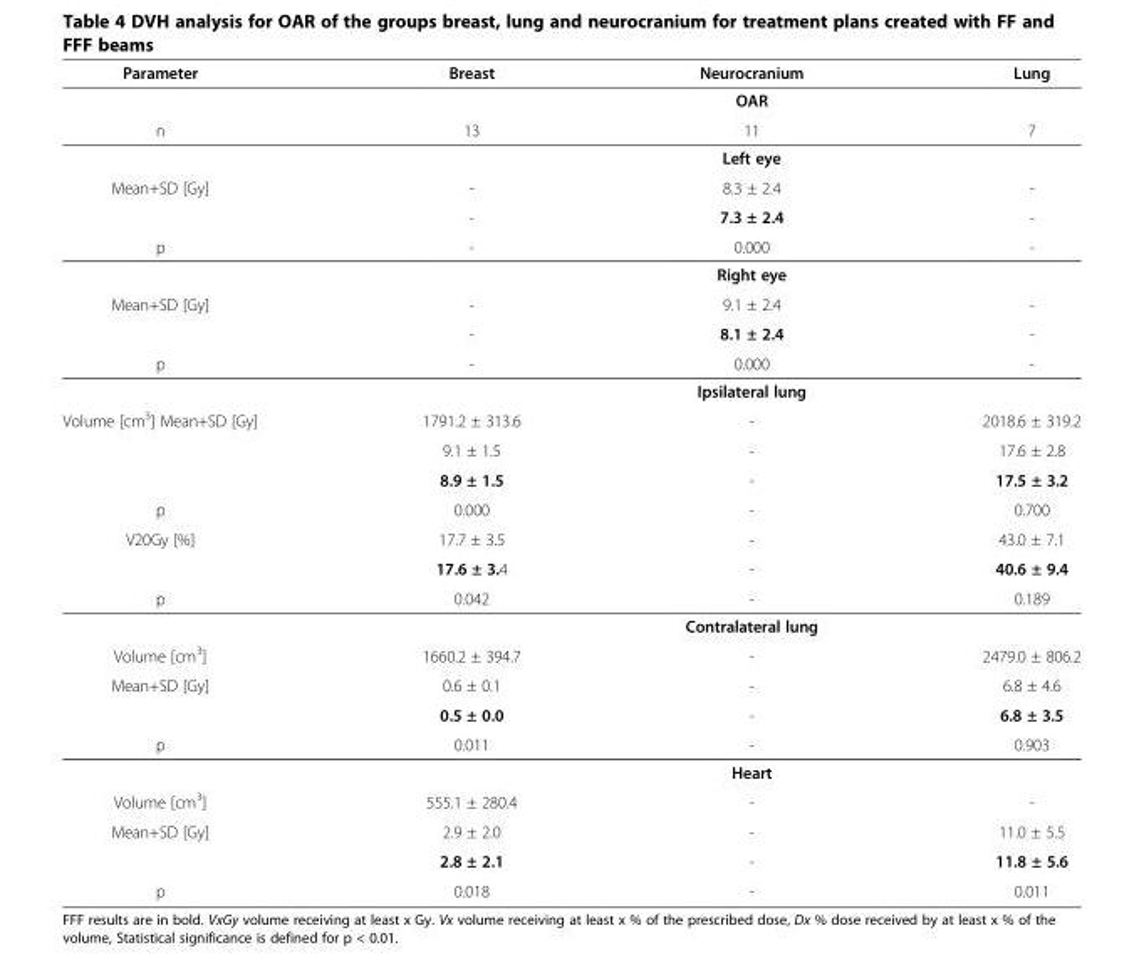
<table><thead><tr><td>Parameter</td><td>Breast</td><td>Neurocranium</td><td>Lung</td></tr></thead><tbody><tr><td></td><td></td><td>OAR</td><td></td></tr><tr><td rowspan="2">n</td><td>13</td><td>11</td><td>7</td></tr><tr><td></td><td>Left eye</td><td></td></tr><tr><td rowspan="2">Mean+SD [Gy]</td><td>-</td><td>8.3 ± 2.4</td><td>-</td></tr><tr><td>-</td><td>7.3 ± 2.4</td><td>-</td></tr><tr><td rowspan="2">p</td><td>-</td><td>0.000</td><td>-</td></tr><tr><td></td><td>Right eye</td><td></td></tr><tr><td rowspan="2">Mean+SD [Gy]</td><td>-</td><td>9.1 ± 2.4</td><td>-</td></tr><tr><td>-</td><td>8.1 ± 2.4</td><td>-</td></tr><tr><td rowspan="2">p</td><td>-</td><td>0.000</td><td>-</td></tr><tr><td></td><td>Ipsilateral lung</td><td></td></tr><tr><td rowspan="3">Volume [cm<sup>3</sup>] Mean+SD [Gy]</td><td>1791.2 ± 313.6</td><td>-</td><td>2018.6 ± 319.2</td></tr><tr><td>9.1 ± 1.5</td><td>-</td><td>17.6 ± 2.8</td></tr><tr><td>8.9 ± 1.5</td><td>-</td><td>17.5 ± 3.2</td></tr><tr><td>p</td><td>0.000</td><td>-</td><td>0.700</td></tr><tr><td rowspan="2">V20Gy [%]</td><td>17.7 ± 3.5</td><td>-</td><td>43.0 ± 7.1</td></tr><tr><td>17.6 ± 3.4</td><td>-</td><td>40.6 ± 9.4</td></tr><tr><td rowspan="2">p</td><td>0.042</td><td>-</td><td>0.189</td></tr><tr><td></td><td>Contralateral lung</td><td></td></tr><tr><td>Volume [cm<sup>3</sup>]</td><td>1660.2 ± 394.7</td><td>-</td><td>2479.0 ± 806.2</td></tr><tr><td rowspan="2">Mean+SD [Gy]</td><td>0.6 ± 0.1</td><td>-</td><td>6.8 ± 4.6</td></tr><tr><td>0.5 ± 0.0</td><td>-</td><td>6.8 ± 3.5</td></tr><tr><td rowspan="2">p</td><td>0.011</td><td>-</td><td>0.903</td></tr><tr><td></td><td>Heart</td><td></td></tr><tr><td>Volume [cm<sup>3</sup>]</td><td>555.1 ± 280.4</td><td>-</td><td>-</td></tr><tr><td rowspan="2">Mean+SD [Gy]</td><td>2.9 ± 2.0</td><td>-</td><td>11.0 ± 5.5</td></tr><tr><td>2.8 ± 2.1</td><td>-</td><td>11.8 ± 5.6</td></tr><tr><td>p</td><td>0.018</td><td>-</td><td>0.011</td></tr></tbody></table>